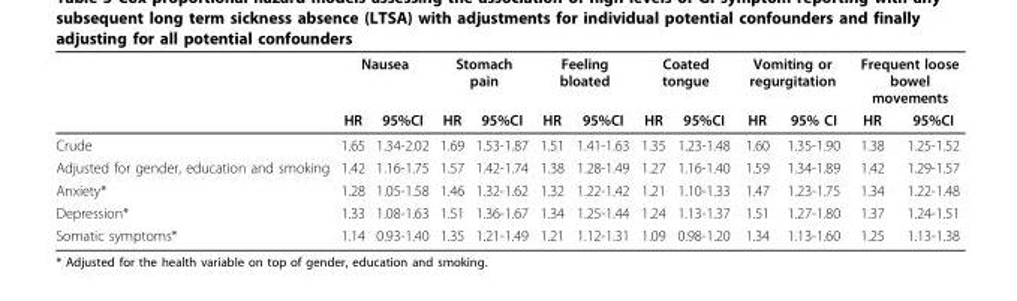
<table><thead><tr><td rowspan="2"></td><td colspan="2">Nausea</td><td colspan="2">Stomach pain</td><td colspan="2">Feeling bloated</td><td colspan="2">Coated tongue</td><td colspan="2">Vomiting or regurgitation</td><td colspan="2">Frequent loose bowel movements</td></tr><tr><td>HR</td><td>95%CI</td><td>HR</td><td>95%CI</td><td>HR</td><td>95%CI</td><td>HR</td><td>95%CI</td><td>HR</td><td>95% CI</td><td>HR</td><td>95%CI</td></tr></thead><tbody><tr><td>Crude</td><td>1.65</td><td>1.34-2.02</td><td>1.69</td><td>1.53-1.87</td><td>1.51</td><td>1.41-1.63</td><td>1.35</td><td>1.23-1.48</td><td>1.60</td><td>1.35-1.90</td><td>1.38</td><td>1.25-1.52</td></tr><tr><td>Adjusted for gender, education and smoking</td><td>1.42</td><td>1.16-1.75</td><td>1.57</td><td>1.42-1.74</td><td>1.38</td><td>1.28-1.49</td><td>1.27</td><td>1.16-1.40</td><td>1.59</td><td>1.34-1.89</td><td>1.42</td><td>1.29-1.57</td></tr><tr><td>Anxiety*</td><td>1.28</td><td>1.05-1.58</td><td>1.46</td><td>1.32-1.62</td><td>1.32</td><td>1.22-1.42</td><td>1.21</td><td>1.10-1.33</td><td>1.47</td><td>1.23-1.75</td><td>1.34</td><td>1.22-1.48</td></tr><tr><td>Depression*</td><td>1.33</td><td>1.08-1.63</td><td>1.51</td><td>1.36-1.67</td><td>1.34</td><td>1.25-1.44</td><td>1.24</td><td>1.13-1.37</td><td>1.51</td><td>1.27-1.80</td><td>1.37</td><td>1.24-1.51</td></tr><tr><td>Somatic symptoms*</td><td>1.14</td><td>0.93-1.40</td><td>1.35</td><td>1.21-1.49</td><td>1.21</td><td>1.12-1.31</td><td>1.09</td><td>0.98-1.20</td><td>1.34</td><td>1.13-1.60</td><td>1.25</td><td>1.13-1.38</td></tr></tbody></table>